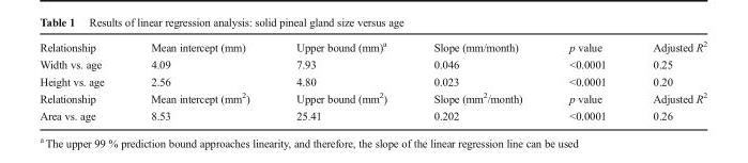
<table><tbody><tr><td>Relationship</td><td>Mean intercept (mm)</td><td>Upper bound (mm)<sup>a</sup></td><td>Slope (mm/month)</td><td>p value</td><td>Adjusted R<sup>2</sup></td></tr><tr><td>Width vs. age</td><td>4.09</td><td>7.93</td><td>0.046</td><td>&lt;0.0001</td><td>0.25</td></tr><tr><td>Height vs. age</td><td>2.56</td><td>4.80</td><td>0.023</td><td>&lt;0.0001</td><td>0.20</td></tr><tr><td>Relationship</td><td>Mean intercept (mm<sup>2</sup>)</td><td>Upper bound (mm<sup>2</sup>)</td><td>Slope (mm<sup>2</sup>/month)</td><td>p value</td><td>Adjusted R<sup>2</sup></td></tr><tr><td>Area vs. age</td><td>8.53</td><td>25.41</td><td>0.202</td><td>&lt;0.0001</td><td>0.26</td></tr></tbody></table>